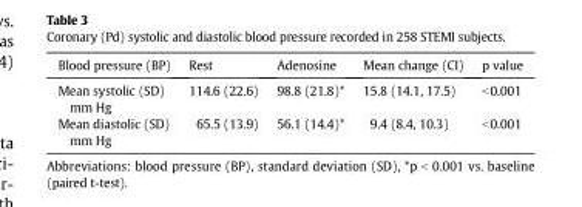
<table><thead><tr><td>Blood pressure (BP)</td><td>Rest</td><td>Adenosine</td><td>Mean change (CI)</td><td>p value</td></tr></thead><tbody><tr><td>Mean systolic (SD) mm Hg</td><td>114.6 (22.6)</td><td>98.8 (21.8)*</td><td>15.8 (14.1, 17.5)</td><td>&lt;0.001</td></tr><tr><td>Mean diastolic (SD) mm Hg</td><td>65.5 (13.9)</td><td>56.1 (14.4)*</td><td>9.4 (8.4, 10.3)</td><td>&lt;0.001</td></tr></tbody></table>